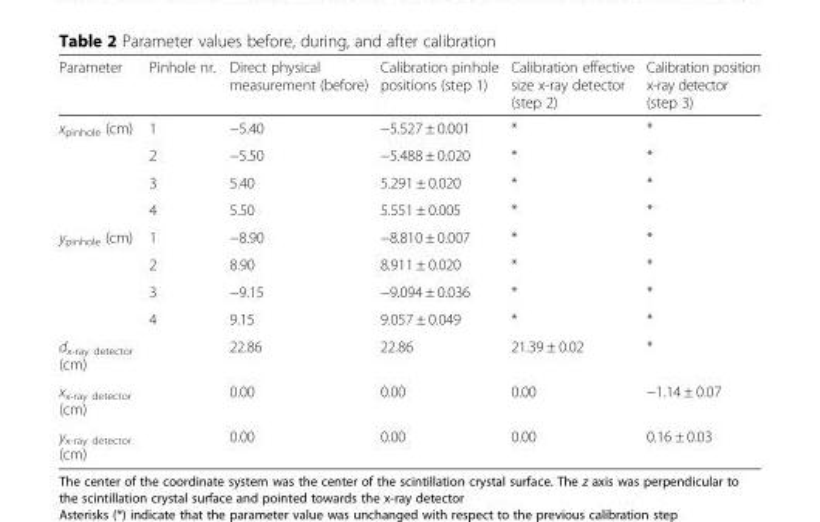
<table><thead><tr><td>Parameter</td><td>Pinhole nr.</td><td>Direct physical measurement (before)</td><td>Calibration pinhole positions (step 1)</td><td>Calibration effective size x-ray detector (step 2)</td><td>Calibration position x-ray detector (step 3)</td></tr></thead><tbody><tr><td rowspan="4">x<sub>pinhole</sub> (cm)</td><td>1</td><td>−5.40</td><td>−5.527 ± 0.001</td><td>*</td><td>*</td></tr><tr><td>2</td><td>−5.50</td><td>−5.488 ± 0.020</td><td>*</td><td>*</td></tr><tr><td>3</td><td>5.40</td><td>5.291 ± 0.020</td><td>*</td><td>*</td></tr><tr><td>4</td><td>5.50</td><td>5.551 ± 0.005</td><td>*</td><td>*</td></tr><tr><td rowspan="4">y<sub>pinhole</sub> (cm)</td><td>1</td><td>−8.90</td><td>−8.810 ± 0.007</td><td>*</td><td>*</td></tr><tr><td>2</td><td>8.90</td><td>8.911 ± 0.020</td><td>*</td><td>*</td></tr><tr><td>3</td><td>−9.15</td><td>−9.094 ± 0.036</td><td>*</td><td>*</td></tr><tr><td>4</td><td>9.15</td><td>9.057 ± 0.049</td><td>*</td><td>*</td></tr><tr><td>d<sub>x-ray detector</sub> (cm)</td><td></td><td>22.86</td><td>22.86</td><td>21.39 ± 0.02</td><td>*</td></tr><tr><td>x<sub>x-ray detector</sub> (cm)</td><td></td><td>0.00</td><td>0.00</td><td>0.00</td><td>−1.14 ± 0.07</td></tr><tr><td>y<sub>x-ray detector</sub> (cm)</td><td></td><td>0.00</td><td>0.00</td><td>0.00</td><td>0.16 ± 0.03</td></tr></tbody></table>